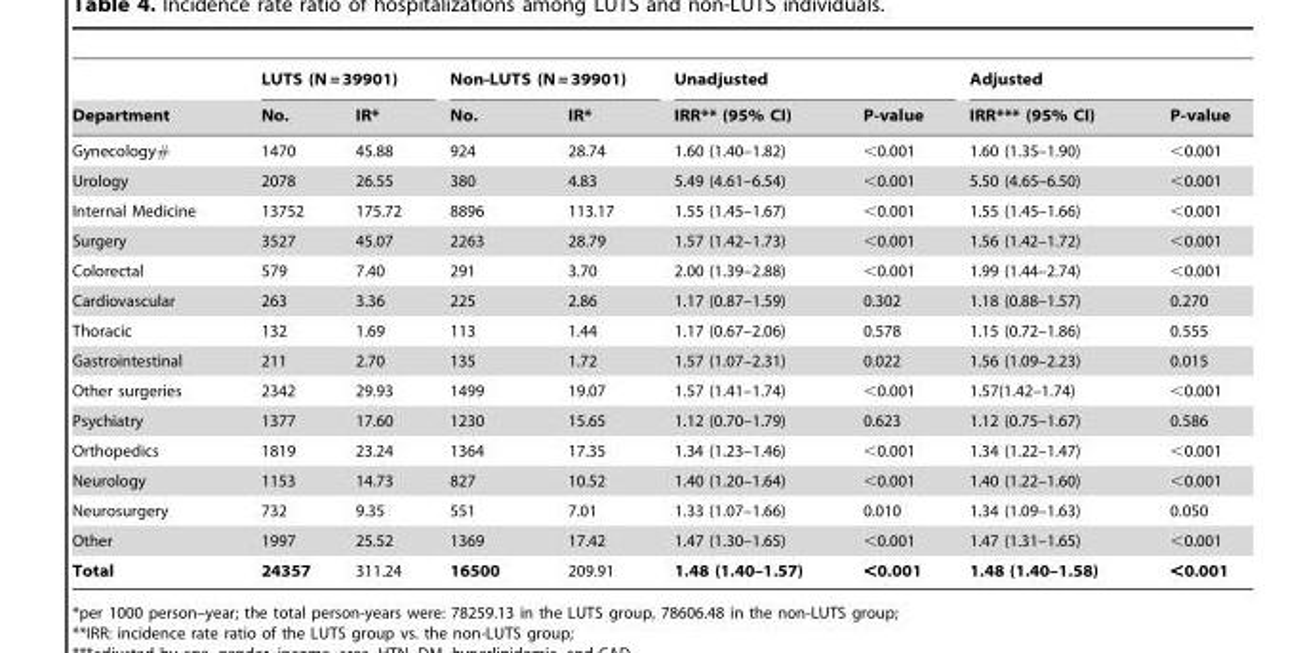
<table><thead><tr><td rowspan="2">Department</td><td colspan="2">LUTS (N = 39901)</td><td colspan="2">Non-LUTS (N = 39901)</td><td colspan="2">Unadjusted</td><td colspan="2">Adjusted</td></tr><tr><td>No.</td><td>IR*</td><td>No.</td><td>IR*</td><td>IRR** (95% CI)</td><td>P-value</td><td>IRR*** (95% CI)</td><td>P-value</td></tr></thead><tbody><tr><td>Gynecology#</td><td>1470</td><td>45.88</td><td>924</td><td>28.74</td><td>1.60 (1.40–1.82)</td><td>&lt;0.001</td><td>1.60 (1.35–1.90)</td><td>&lt;0.001</td></tr><tr><td>Urology</td><td>2078</td><td>26.55</td><td>380</td><td>4.83</td><td>5.49 (4.61–6.54)</td><td>&lt;0.001</td><td>5.50 (4.65–6.50)</td><td>&lt;0.001</td></tr><tr><td>Internal Medicine</td><td>13752</td><td>175.72</td><td>8896</td><td>113.17</td><td>1.55 (1.45–1.67)</td><td>&lt;0.001</td><td>1.55 (1.45–1.66)</td><td>&lt;0.001</td></tr><tr><td>Surgery</td><td>3527</td><td>45.07</td><td>2263</td><td>28.79</td><td>1.57 (1.42–1.73)</td><td>&lt;0.001</td><td>1.56 (1.42–1.72)</td><td>&lt;0.001</td></tr><tr><td>Colorectal</td><td>579</td><td>7.40</td><td>291</td><td>3.70</td><td>2.00 (1.39–2.88)</td><td>&lt;0.001</td><td>1.99 (1.44–2.74)</td><td>&lt;0.001</td></tr><tr><td>Cardiovascular</td><td>263</td><td>3.36</td><td>225</td><td>2.86</td><td>1.17 (0.87–1.59)</td><td>0.302</td><td>1.18 (0.88–1.57)</td><td>0.270</td></tr><tr><td>Thoracic</td><td>132</td><td>1.69</td><td>113</td><td>1.44</td><td>1.17 (0.67–2.06)</td><td>0.578</td><td>1.15 (0.72–1.86)</td><td>0.555</td></tr><tr><td>Gastrointestinal</td><td>211</td><td>2.70</td><td>135</td><td>1.72</td><td>1.57 (1.07–2.31)</td><td>0.022</td><td>1.56 (1.09–2.23)</td><td>0.015</td></tr><tr><td>Other surgeries</td><td>2342</td><td>29.93</td><td>1499</td><td>19.07</td><td>1.57 (1.41–1.74)</td><td>&lt;0.001</td><td>1.57(1.42–1.74)</td><td>&lt;0.001</td></tr><tr><td>Psychiatry</td><td>1377</td><td>17.60</td><td>1230</td><td>15.65</td><td>1.12 (0.70–1.79)</td><td>0.623</td><td>1.12 (0.75–1.67)</td><td>0.586</td></tr><tr><td>Orthopedics</td><td>1819</td><td>23.24</td><td>1364</td><td>17.35</td><td>1.34 (1.23–1.46)</td><td>&lt;0.001</td><td>1.34 (1.22–1.47)</td><td>&lt;0.001</td></tr><tr><td>Neurology</td><td>1153</td><td>14.73</td><td>827</td><td>10.52</td><td>1.40 (1.20–1.64)</td><td>&lt;0.001</td><td>1.40 (1.22–1.60)</td><td>&lt;0.001</td></tr><tr><td>Neurosurgery</td><td>732</td><td>9.35</td><td>551</td><td>7.01</td><td>1.33 (1.07–1.66)</td><td>0.010</td><td>1.34 (1.09–1.63)</td><td>0.050</td></tr><tr><td>Other</td><td>1997</td><td>25.52</td><td>1369</td><td>17.42</td><td>1.47 (1.30–1.65)</td><td>&lt;0.001</td><td>1.47 (1.31–1.65)</td><td>&lt;0.001</td></tr><tr><td>Total</td><td>24357</td><td>311.24</td><td>16500</td><td>209.91</td><td>1.48 (1.40–1.57)</td><td>&lt;0.001</td><td>1.48 (1.40–1.58)</td><td>&lt;0.001</td></tr></tbody></table>